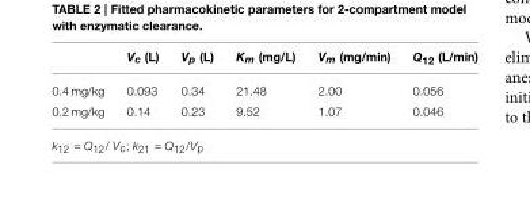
<table><thead><tr><td></td><td>V<sub>c</sub> (L)</td><td>V<sub>p</sub> (L)</td><td>K<sub>m</sub> (mg/L)</td><td>V<sub>m</sub> (mg/min)</td><td>Q<sub>12</sub> (L/min)</td></tr></thead><tbody><tr><td>0.4 mg/kg</td><td>0.093</td><td>0.34</td><td>21.48</td><td>2.00</td><td>0.056</td></tr><tr><td>0.2 mg/kg</td><td>0.14</td><td>0.23</td><td>9.52</td><td>1.07</td><td>0.046</td></tr><tr><td colspan="6">k<sub>12</sub> = Q<sub>12</sub>/ V<sub>c</sub>; k<sub>21</sub> = Q<sub>12</sub>/V<sub>p</sub></td></tr></tbody></table>